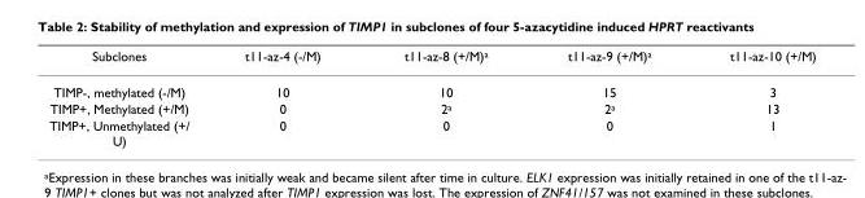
<table><thead><tr><td>Subclones</td><td>t11-az-4 (-/M)</td><td>t11-az-8 (+/M)<sup>a</sup></td><td>t11-az-9 (+/M)<sup>a</sup></td><td>t11-az-10 (+/M)</td></tr></thead><tbody><tr><td>TIMP-, methylated (-/M)</td><td>10</td><td>10</td><td>15</td><td>3</td></tr><tr><td>TIMP+, Methylated (+/M)</td><td>0</td><td>2<sup>a</sup></td><td>2<sup>a</sup></td><td>13</td></tr><tr><td>TIMP+, Unmethylated (+/ U)</td><td>0</td><td>0</td><td>0</td><td>1</td></tr></tbody></table>